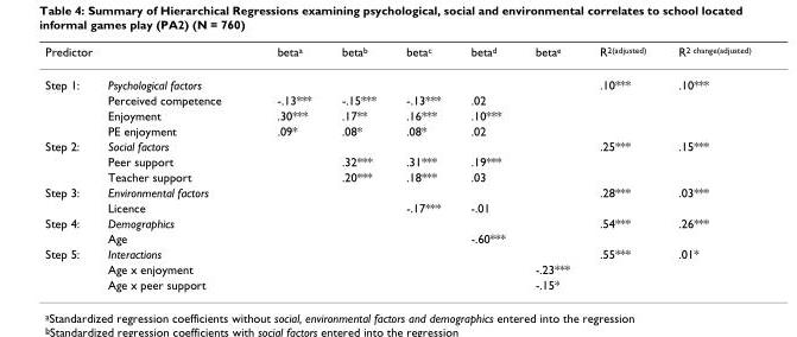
<table><thead><tr><td colspan="2">Predictor</td><td rowspan="2">beta<sup>a</sup></td><td rowspan="2">beta<sup>b</sup></td><td rowspan="2">beta<sup>c</sup></td><td rowspan="2">beta<sup>d</sup></td><td rowspan="2">beta<sup>e</sup></td><td rowspan="2">R<sup>2(adjusted)</sup> .10***</td><td rowspan="2">R<sup>2 change(adjusted)</sup> .10***</td></tr><tr><td>Step 1:</td><td>Psychological factors</td></tr></thead><tbody><tr><td></td><td>Perceived competence</td><td>-.13***</td><td>-.15***</td><td>-.13***</td><td>.02</td><td></td><td></td><td></td></tr><tr><td></td><td>Enjoyment</td><td>.30***</td><td>.17**</td><td>.16***</td><td>.10***</td><td></td><td></td><td></td></tr><tr><td></td><td>PE enjoyment</td><td>.09*</td><td>.08*</td><td>.08*</td><td>.02</td><td></td><td></td><td></td></tr><tr><td rowspan="3">Step 2:</td><td>Social factors</td><td></td><td></td><td></td><td></td><td></td><td>.25***</td><td>.15***</td></tr><tr><td>Peer support</td><td></td><td>.32***</td><td>.31***</td><td>.19***</td><td></td><td></td><td></td></tr><tr><td>Teacher support</td><td></td><td>.20***</td><td>.18***</td><td>.03</td><td></td><td></td><td></td></tr><tr><td rowspan="2">Step 3:</td><td>Environmental factors</td><td></td><td></td><td></td><td></td><td></td><td>.28***</td><td>.03***</td></tr><tr><td>Licence</td><td></td><td></td><td>-.17***</td><td>-.01</td><td></td><td></td><td></td></tr><tr><td rowspan="2">Step 4:</td><td>Demographics</td><td></td><td></td><td></td><td></td><td></td><td>.54***</td><td>.26***</td></tr><tr><td>Age</td><td></td><td></td><td></td><td>-.60***</td><td></td><td></td><td></td></tr><tr><td rowspan="3">Step 5:</td><td>Interactions</td><td></td><td></td><td></td><td></td><td></td><td>.55***</td><td>.01*</td></tr><tr><td>Age x enjoyment</td><td></td><td></td><td></td><td></td><td>-.23***</td><td></td><td></td></tr><tr><td>Age x peer support</td><td></td><td></td><td></td><td></td><td>-.15*</td><td></td><td></td></tr></tbody></table>